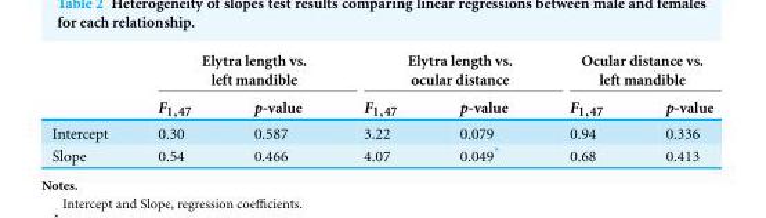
<table><thead><tr><td rowspan="2"></td><td colspan="2">Elytra length vs. left mandible</td><td colspan="2">Elytra length vs. ocular distance</td><td colspan="2">Ocular distance vs. left mandible</td></tr><tr><td>F<sub>1,47</sub></td><td>p-value</td><td>F<sub>1,47</sub></td><td>p-value</td><td>F<sub>1,47</sub></td><td>p-value</td></tr></thead><tbody><tr><td>Intercept</td><td>0.30</td><td>0.587</td><td>3.22</td><td>0.079</td><td>0.94</td><td>0.336</td></tr><tr><td>Slope</td><td>0.54</td><td>0.466</td><td>4.07</td><td>0.049*</td><td>0.68</td><td>0.413</td></tr></tbody></table>